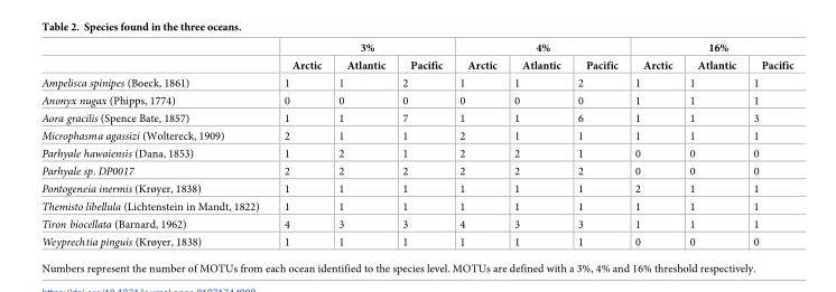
<table><thead><tr><td rowspan="2"></td><td colspan="3">3%</td><td colspan="3">4%</td><td colspan="3">16%</td></tr><tr><td>Arctic</td><td>Atlantic</td><td>Pacific</td><td>Arctic</td><td>Atlantic</td><td>Pacific</td><td>Arctic</td><td>Atlantic</td><td>Pacific</td></tr></thead><tbody><tr><td>Ampelisca spinipes (Boeck, 1861)</td><td>1</td><td>1</td><td>2</td><td>1</td><td>1</td><td>2</td><td>1</td><td>1</td><td>1</td></tr><tr><td>Anonyx nugax (Phipps, 1774)</td><td>0</td><td>0</td><td>0</td><td>0</td><td>0</td><td>0</td><td>1</td><td>1</td><td>1</td></tr><tr><td>Aora gracilis (Spence Bate, 1857)</td><td>1</td><td>1</td><td>7</td><td>1</td><td>1</td><td>6</td><td>1</td><td>1</td><td>3</td></tr><tr><td>Microphasma agassizi (Woltereck, 1909)</td><td>2</td><td>1</td><td>1</td><td>2</td><td>1</td><td>1</td><td>1</td><td>1</td><td>1</td></tr><tr><td>Parhyale hawaiensis (Dana, 1853)</td><td>1</td><td>2</td><td>1</td><td>2</td><td>2</td><td>1</td><td>0</td><td>0</td><td>0</td></tr><tr><td>Parhyale sp. DP0017</td><td>2</td><td>2</td><td>2</td><td>2</td><td>2</td><td>2</td><td>0</td><td>0</td><td>0</td></tr><tr><td>Pontogeneia inermis (Krøyer, 1838)</td><td>1</td><td>1</td><td>1</td><td>1</td><td>1</td><td>1</td><td>2</td><td>1</td><td>1</td></tr><tr><td>Themisto libellula (Lichtenstein in Mandt, 1822)</td><td>1</td><td>1</td><td>1</td><td>1</td><td>1</td><td>1</td><td>1</td><td>1</td><td>1</td></tr><tr><td>Tiron biocellata (Barnard, 1962)</td><td>4</td><td>3</td><td>3</td><td>4</td><td>3</td><td>3</td><td>1</td><td>1</td><td>1</td></tr><tr><td>Weyprechtia pinguis (Krøyer, 1838)</td><td>1</td><td>1</td><td>1</td><td>1</td><td>1</td><td>1</td><td>0</td><td>0</td><td>0</td></tr></tbody></table>